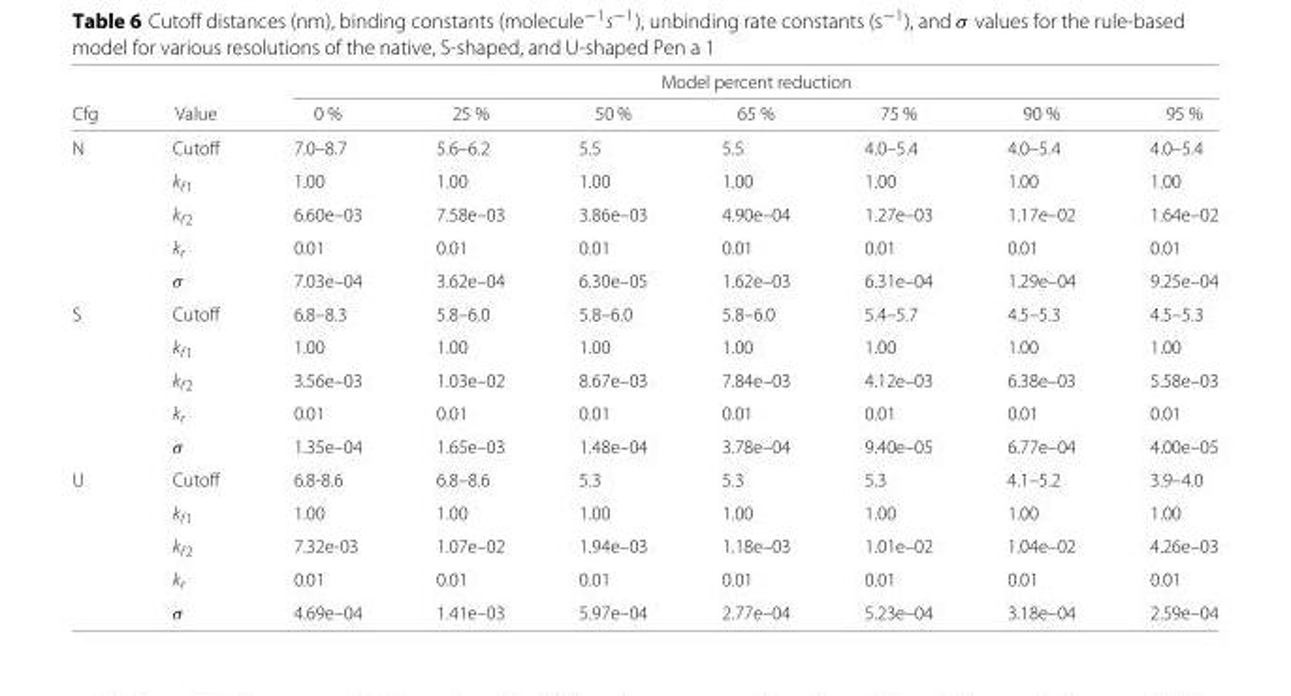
<table><thead><tr><td rowspan="2">Cfg</td><td rowspan="2">Value</td><td colspan="7">Model percent reduction</td></tr><tr><td>0 %</td><td>25 %</td><td>50 %</td><td>65 %</td><td>75 %</td><td>90 %</td><td>95 %</td></tr></thead><tbody><tr><td rowspan="5">N</td><td>Cutoff</td><td>7.0–8.7</td><td>5.6–6.2</td><td>5.5</td><td>5.5</td><td>4.0–5.4</td><td>4.0–5.4</td><td>4.0–5.4</td></tr><tr><td>k<sub>f1</sub></td><td>1.00</td><td>1.00</td><td>1.00</td><td>1.00</td><td>1.00</td><td>1.00</td><td>1.00</td></tr><tr><td>k<sub>f2</sub></td><td>6.60e–03</td><td>7.58e–03</td><td>3.86e–03</td><td>4.90e–04</td><td>1.27e–03</td><td>1.17e–02</td><td>1.64e–02</td></tr><tr><td>k<sub>r</sub></td><td>0.01</td><td>0.01</td><td>0.01</td><td>0.01</td><td>0.01</td><td>0.01</td><td>0.01</td></tr><tr><td>σ</td><td>7.03e–04</td><td>3.62e–04</td><td>6.30e–05</td><td>1.62e–03</td><td>6.31e–04</td><td>1.29e–04</td><td>9.25e–04</td></tr><tr><td rowspan="5">S</td><td>Cutoff</td><td>6.8–8.3</td><td>5.8–6.0</td><td>5.8–6.0</td><td>5.8–6.0</td><td>5.4–5.7</td><td>4.5–5.3</td><td>4.5–5.3</td></tr><tr><td>k<sub>f1</sub></td><td>1.00</td><td>1.00</td><td>1.00</td><td>1.00</td><td>1.00</td><td>1.00</td><td>1.00</td></tr><tr><td>k<sub>f2</sub></td><td>3.56e–03</td><td>1.03e–02</td><td>8.67e–03</td><td>7.84e–03</td><td>4.12e–03</td><td>6.38e–03</td><td>5.58e–03</td></tr><tr><td>k<sub>r</sub></td><td>0.01</td><td>0.01</td><td>0.01</td><td>0.01</td><td>0.01</td><td>0.01</td><td>0.01</td></tr><tr><td>σ</td><td>1.35e–04</td><td>1.65e–03</td><td>1.48e–04</td><td>3.78e–04</td><td>9.40e–05</td><td>6.77e–04</td><td>4.00e–05</td></tr><tr><td rowspan="5">U</td><td>Cutoff</td><td>6.8-8.6</td><td>6.8–8.6</td><td>5.3</td><td>5.3</td><td>5.3</td><td>4.1–5.2</td><td>3.9–4.0</td></tr><tr><td>k<sub>f1</sub></td><td>1.00</td><td>1.00</td><td>1.00</td><td>1.00</td><td>1.00</td><td>1.00</td><td>1.00</td></tr><tr><td>k<sub>f2</sub></td><td>7.32e-03</td><td>1.07e–02</td><td>1.94e–03</td><td>1.18e–03</td><td>1.01e–02</td><td>1.04e–02</td><td>4.26e–03</td></tr><tr><td>k<sub>r</sub></td><td>0.01</td><td>0.01</td><td>0.01</td><td>0.01</td><td>0.01</td><td>0.01</td><td>0.01</td></tr><tr><td>σ</td><td>4.69e–04</td><td>1.41e–03</td><td>5.97e–04</td><td>2.77e–04</td><td>5.23e–04</td><td>3.18e–04</td><td>2.59e–04</td></tr></tbody></table>